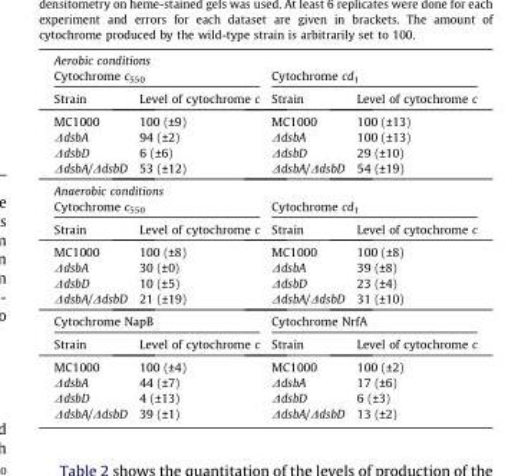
<table><thead><tr><td colspan="4">Aerobic conditions</td></tr><tr><td colspan="2">Cytochrome c<sub>550</sub></td><td colspan="2">Cytochrome cd<sub>1</sub></td></tr><tr><td>Strain</td><td>Level of cytochrome c</td><td>Strain</td><td>Level of cytochrome c</td></tr></thead><tbody><tr><td>MC1000</td><td>100 (±9)</td><td>MC1000</td><td>100 (±13)</td></tr><tr><td>ΔdsbA</td><td>94 (±2)</td><td>ΔdsbA</td><td>100 (±13)</td></tr><tr><td>ΔdsbD</td><td>6 (±6)</td><td>ΔdsbD</td><td>29 (±10)</td></tr><tr><td>ΔdsbA/ΔdsbD</td><td>53 (±12)</td><td>ΔdsbA/ΔdsbD</td><td>54 (±19)</td></tr><tr><td colspan="4">Anaerobic conditions</td></tr><tr><td colspan="2">Cytochrome c<sub>550</sub></td><td colspan="2">Cytochrome cd<sub>1</sub></td></tr><tr><td>Strain</td><td>Level of cytochrome c</td><td>Strain</td><td>Level of cytochrome c</td></tr><tr><td>MC1000</td><td>100 (±8)</td><td>MC1000</td><td>100 (±8)</td></tr><tr><td>ΔdsbA</td><td>30 (±0)</td><td>ΔdsbA</td><td>39 (±8)</td></tr><tr><td>ΔdsbD</td><td>10 (±5)</td><td>ΔdsbD</td><td>23 (±4)</td></tr><tr><td>ΔdsbA/ΔdsbD</td><td>21 (±19)</td><td>ΔdsbA/ΔdsbD</td><td>31 (±10)</td></tr><tr><td colspan="2">Cytochrome NapB</td><td colspan="2">Cytochrome NrfA</td></tr><tr><td>Strain</td><td>Level of cytochrome c</td><td>Strain</td><td>Level of cytochrome c</td></tr><tr><td>MC1000</td><td>100 (±4)</td><td>MC1000</td><td>100 (±2)</td></tr><tr><td>ΔdsbA</td><td>44 (±7)</td><td>ΔdsbA</td><td>17 (±6)</td></tr><tr><td>ΔdsbD</td><td>4 (±13)</td><td>ΔdsbD</td><td>6 (±3)</td></tr><tr><td>ΔdsbA/ΔdsbD</td><td>39 (±1)</td><td>ΔdsbA/ΔdsbD</td><td>13 (±2)</td></tr></tbody></table>